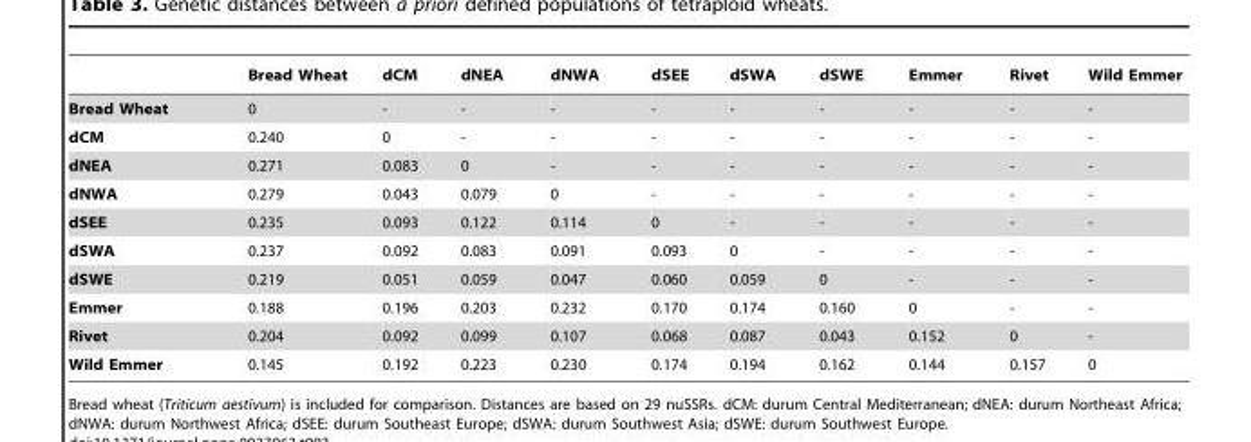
<table><thead><tr><td></td><td>Bread Wheat</td><td>dCM</td><td>dNEA</td><td>dNWA</td><td>dSEE</td><td>dSWA</td><td>dSWE</td><td>Emmer</td><td>Rivet</td><td>Wild Emmer</td></tr></thead><tbody><tr><td>Bread Wheat</td><td>0</td><td>-</td><td>-</td><td>-</td><td>-</td><td>-</td><td>-</td><td>-</td><td>-</td><td>-</td></tr><tr><td>dCM</td><td>0.240</td><td>0</td><td>-</td><td>-</td><td>-</td><td>-</td><td>-</td><td>-</td><td>-</td><td>-</td></tr><tr><td>dNEA</td><td>0.271</td><td>0.083</td><td>0</td><td>-</td><td>-</td><td>-</td><td>-</td><td>-</td><td>-</td><td>-</td></tr><tr><td>dNWA</td><td>0.279</td><td>0.043</td><td>0.079</td><td>0</td><td>-</td><td>-</td><td>-</td><td>-</td><td>-</td><td>-</td></tr><tr><td>dSEE</td><td>0.235</td><td>0.093</td><td>0.122</td><td>0.114</td><td>0</td><td>-</td><td>-</td><td>-</td><td>-</td><td>-</td></tr><tr><td>dSWA</td><td>0.237</td><td>0.092</td><td>0.083</td><td>0.091</td><td>0.093</td><td>0</td><td>-</td><td>-</td><td>-</td><td>-</td></tr><tr><td>dSWE</td><td>0.219</td><td>0.051</td><td>0.059</td><td>0.047</td><td>0.060</td><td>0.059</td><td>0</td><td>-</td><td>-</td><td>-</td></tr><tr><td>Emmer</td><td>0.188</td><td>0.196</td><td>0.203</td><td>0.232</td><td>0.170</td><td>0.174</td><td>0.160</td><td>0</td><td>-</td><td>-</td></tr><tr><td>Rivet</td><td>0.204</td><td>0.092</td><td>0.099</td><td>0.107</td><td>0.068</td><td>0.087</td><td>0.043</td><td>0.152</td><td>0</td><td>-</td></tr><tr><td>Wild Emmer</td><td>0.145</td><td>0.192</td><td>0.223</td><td>0.230</td><td>0.174</td><td>0.194</td><td>0.162</td><td>0.144</td><td>0.157</td><td>0</td></tr></tbody></table>